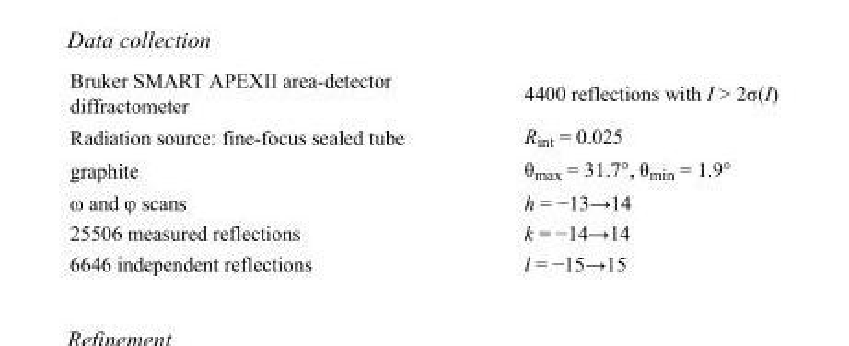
<table><tbody><tr><td>Bruker SMART APEXII area-detector diffractometer</td><td>4400 reflections with I &gt; 2σ(I)</td></tr><tr><td>Radiation source: fine-focus sealed tube</td><td>R<sub>int</sub> = 0.025</td></tr><tr><td>graphite</td><td>θ<sub>max</sub> = 31.7°, θ<sub>min</sub> = 1.9°</td></tr><tr><td>ω and φ scans</td><td>h = −13→14</td></tr><tr><td>25506 measured reflections</td><td>k = −14→14</td></tr><tr><td>6646 independent reflections</td><td>l = −15→15</td></tr></tbody></table>